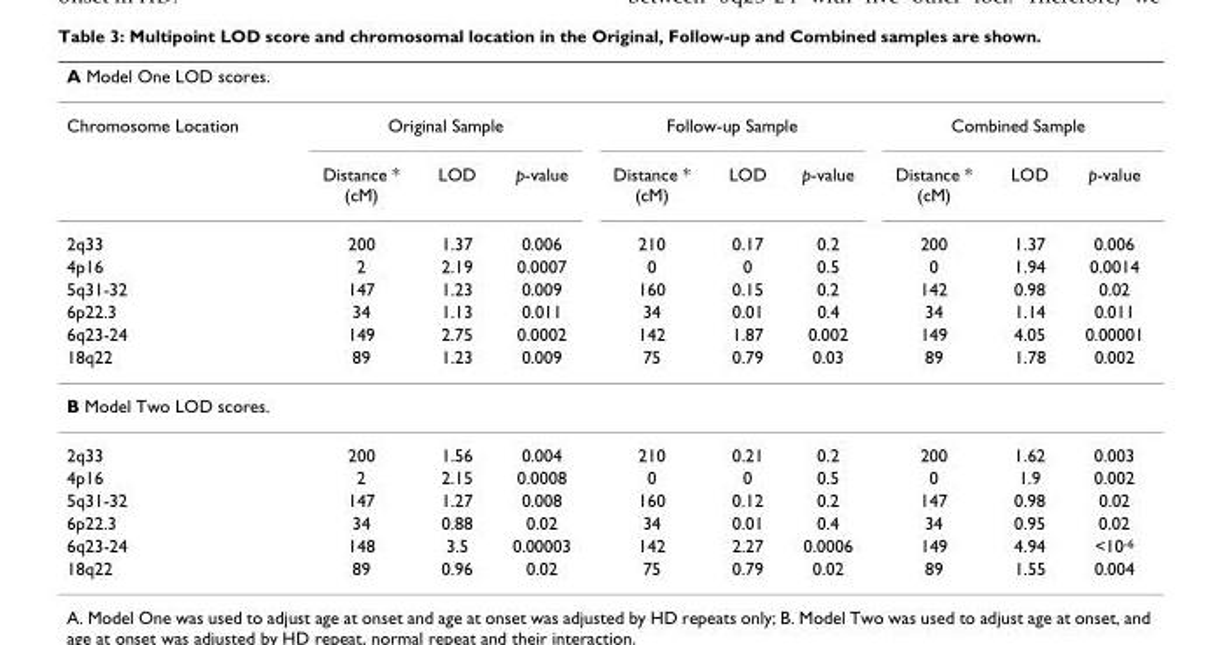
<table><thead><tr><td colspan="10">A Model One LOD scores.</td></tr><tr><td rowspan="2">Chromosome Location</td><td colspan="3">Original Sample</td><td colspan="3">Follow-up Sample</td><td colspan="3">Combined Sample</td></tr><tr><td>Distance * (cM)</td><td>LOD</td><td>p-value</td><td>Distance * (cM)</td><td>LOD</td><td>p-value</td><td>Distance * (cM)</td><td>LOD</td><td>p-value</td></tr></thead><tbody><tr><td>2q33</td><td>200</td><td>1.37</td><td>0.006</td><td>210</td><td>0.17</td><td>0.2</td><td>200</td><td>1.37</td><td>0.006</td></tr><tr><td>4p16</td><td>2</td><td>2.19</td><td>0.0007</td><td>0</td><td>0</td><td>0.5</td><td>0</td><td>1.94</td><td>0.0014</td></tr><tr><td>5q31-32</td><td>147</td><td>1.23</td><td>0.009</td><td>160</td><td>0.15</td><td>0.2</td><td>142</td><td>0.98</td><td>0.02</td></tr><tr><td>6p22.3</td><td>34</td><td>1.13</td><td>0.011</td><td>34</td><td>0.01</td><td>0.4</td><td>34</td><td>1.14</td><td>0.011</td></tr><tr><td>6q23-24</td><td>149</td><td>2.75</td><td>0.0002</td><td>142</td><td>1.87</td><td>0.002</td><td>149</td><td>4.05</td><td>0.00001</td></tr><tr><td>18q22</td><td>89</td><td>1.23</td><td>0.009</td><td>75</td><td>0.79</td><td>0.03</td><td>89</td><td>1.78</td><td>0.002</td></tr><tr><td colspan="10">B Model Two LOD scores.</td></tr><tr><td>2q33</td><td>200</td><td>1.56</td><td>0.004</td><td>210</td><td>0.21</td><td>0.2</td><td>200</td><td>1.62</td><td>0.003</td></tr><tr><td>4p16</td><td>2</td><td>2.15</td><td>0.0008</td><td>0</td><td>0</td><td>0.5</td><td>0</td><td>1.9</td><td>0.002</td></tr><tr><td>5q31-32</td><td>147</td><td>1.27</td><td>0.008</td><td>160</td><td>0.12</td><td>0.2</td><td>147</td><td>0.98</td><td>0.02</td></tr><tr><td>6p22.3</td><td>34</td><td>0.88</td><td>0.02</td><td>34</td><td>0.01</td><td>0.4</td><td>34</td><td>0.95</td><td>0.02</td></tr><tr><td>6q23-24</td><td>148</td><td>3.5</td><td>0.00003</td><td>142</td><td>2.27</td><td>0.0006</td><td>149</td><td>4.94</td><td>&lt;10<sup>-6</sup></td></tr><tr><td>18q22</td><td>89</td><td>0.96</td><td>0.02</td><td>75</td><td>0.79</td><td>0.02</td><td>89</td><td>1.55</td><td>0.004</td></tr></tbody></table>